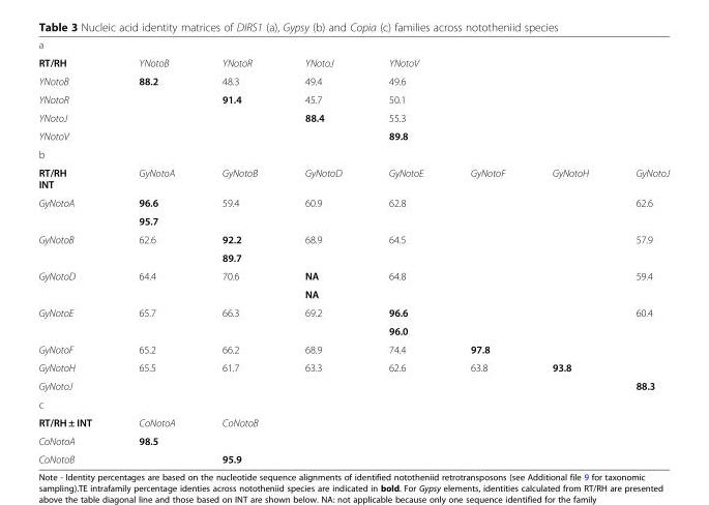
<table><tbody><tr><td colspan="8">a</td></tr><tr><td>RT/RH</td><td>YNotoB</td><td>YNotoR</td><td>YNotoJ</td><td>YNotoV</td><td></td><td></td><td></td></tr><tr><td>YNotoB</td><td>88.2</td><td>48.3</td><td>49.4</td><td>49.6</td><td></td><td></td><td></td></tr><tr><td>YNotoR</td><td></td><td>91.4</td><td>45.7</td><td>50.1</td><td></td><td></td><td></td></tr><tr><td>YNotoJ</td><td></td><td></td><td>88.4</td><td>55.3</td><td></td><td></td><td></td></tr><tr><td>YNotoV</td><td></td><td></td><td></td><td>89.8</td><td></td><td></td><td></td></tr><tr><td colspan="8">b</td></tr><tr><td>RT/RH INT</td><td>GyNotoA</td><td>GyNotoB</td><td>GyNotoD</td><td>GyNotoE</td><td>GyNotoF</td><td>GyNotoH</td><td>GyNotoJ</td></tr><tr><td rowspan="2">GyNotoA</td><td>96.6</td><td rowspan="2">59.4</td><td rowspan="2">60.9</td><td rowspan="2">62.8</td><td rowspan="2"></td><td rowspan="2"></td><td rowspan="2">62.6</td></tr><tr><td>95.7</td></tr><tr><td rowspan="2">GyNotoB</td><td rowspan="2">62.6</td><td>92.2</td><td rowspan="2">68.9</td><td rowspan="2">64.5</td><td rowspan="2"></td><td rowspan="2"></td><td rowspan="2">57.9</td></tr><tr><td>89.7</td></tr><tr><td rowspan="2">GyNotoD</td><td rowspan="2">64.4</td><td rowspan="2">70.6</td><td>NA</td><td rowspan="2">64.8</td><td rowspan="2"></td><td rowspan="2"></td><td rowspan="2">59.4</td></tr><tr><td>NA</td></tr><tr><td rowspan="2">GyNotoE</td><td rowspan="2">65.7</td><td rowspan="2">66.3</td><td rowspan="2">69.2</td><td>96.6</td><td rowspan="2"></td><td rowspan="2"></td><td rowspan="2">60.4</td></tr><tr><td>96.0</td></tr><tr><td>GyNotoF</td><td>65.2</td><td>66.2</td><td>68.9</td><td>74.4</td><td>97.8</td><td></td><td></td></tr><tr><td>GyNotoH</td><td>65.5</td><td>61.7</td><td>63.3</td><td>62.6</td><td>63.8</td><td>93.8</td><td></td></tr><tr><td>GyNotoJ</td><td></td><td></td><td></td><td></td><td></td><td></td><td>88.3</td></tr><tr><td colspan="8">c</td></tr><tr><td>RT/RH ± INT</td><td>CoNotoA</td><td>CoNotoB</td><td></td><td></td><td></td><td></td><td></td></tr><tr><td>CoNotoA</td><td>98.5</td><td></td><td></td><td></td><td></td><td></td><td></td></tr><tr><td>CoNotoB</td><td></td><td>95.9</td><td></td><td></td><td></td><td></td><td></td></tr></tbody></table>